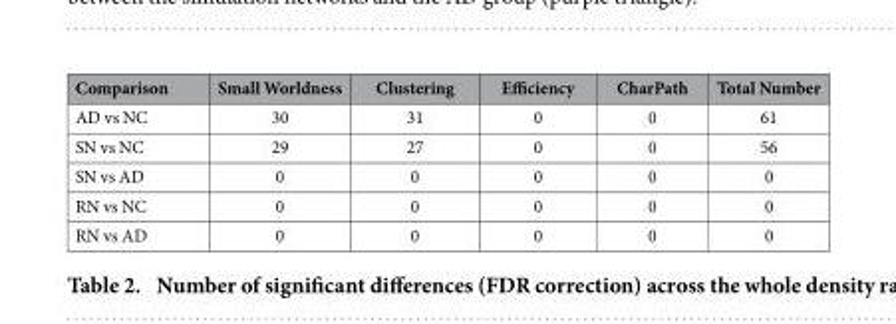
<table><thead><tr><td>Comparison</td><td>Small Worldness</td><td>Clustering</td><td>Efficiency</td><td>CharPath</td><td>Total Number</td></tr></thead><tbody><tr><td>AD vs NC</td><td>30</td><td>31</td><td>0</td><td>0</td><td>61</td></tr><tr><td>SN vs NC</td><td>29</td><td>27</td><td>0</td><td>0</td><td>56</td></tr><tr><td>SN vs AD</td><td>0</td><td>0</td><td>0</td><td>0</td><td>0</td></tr><tr><td>RN vs NC</td><td>0</td><td>0</td><td>0</td><td>0</td><td>0</td></tr><tr><td>RN vs AD</td><td>0</td><td>0</td><td>0</td><td>0</td><td>0</td></tr></tbody></table>